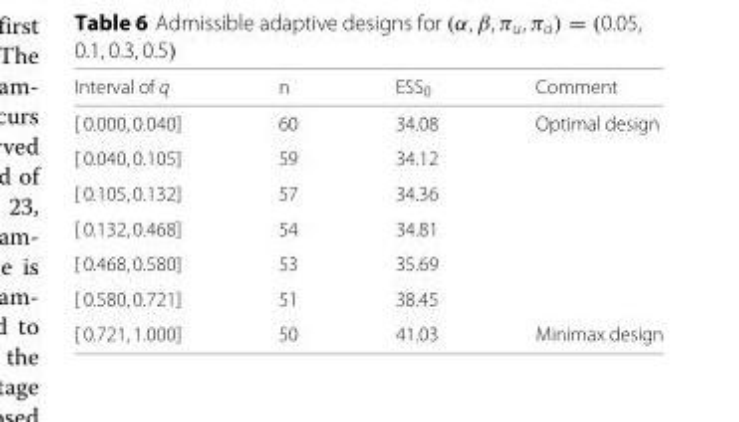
<table><thead><tr><td>Interval of q</td><td>n</td><td>ESS<sub>0</sub></td><td>Comment</td></tr></thead><tbody><tr><td>[ 0.000, 0.040]</td><td>60</td><td>34.08</td><td>Optimal design</td></tr><tr><td>[ 0.040, 0.105]</td><td>59</td><td>34.12</td><td></td></tr><tr><td>[ 0.105, 0.132]</td><td>57</td><td>34.36</td><td></td></tr><tr><td>[ 0.132, 0.468]</td><td>54</td><td>34.81</td><td></td></tr><tr><td>[ 0.468, 0.580]</td><td>53</td><td>35.69</td><td></td></tr><tr><td>[ 0.580, 0.721]</td><td>51</td><td>38.45</td><td></td></tr><tr><td>[ 0.721, 1.000]</td><td>50</td><td>41.03</td><td>Minimax design</td></tr></tbody></table>